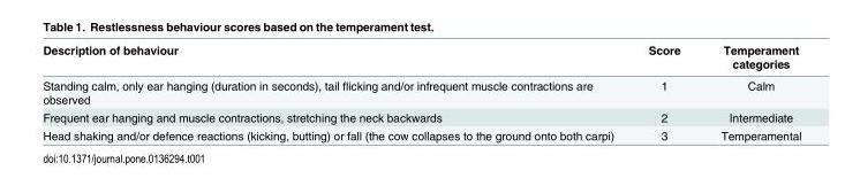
<table><thead><tr><td>Description of behaviour</td><td>Score</td><td>Temperament categories</td></tr></thead><tbody><tr><td>Standing calm, only ear hanging (duration in seconds), tail flicking and/or infrequent muscle contractions are observed</td><td>1</td><td>Calm</td></tr><tr><td>Frequent ear hanging and muscle contractions, stretching the neck backwards</td><td>2</td><td>Intermediate</td></tr><tr><td>Head shaking and/or defence reactions (kicking, butting) or fall (the cow collapses to the ground onto both carpi)</td><td>3</td><td>Temperamental</td></tr></tbody></table>